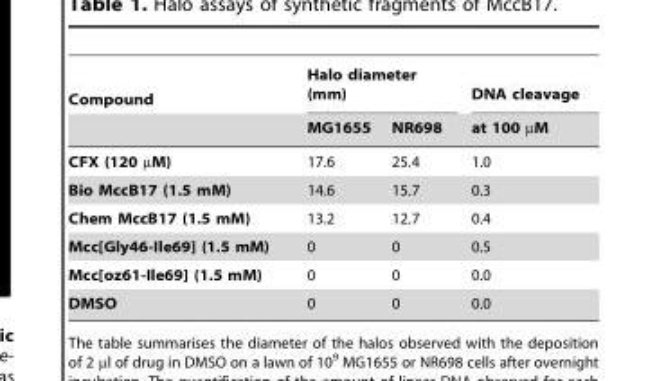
<table><thead><tr><td rowspan="2">Compound</td><td colspan="2">Halo diameter (mm)</td><td rowspan="2">DNA cleavage at 100 µM</td></tr><tr><td>MG1655</td><td>NR698</td></tr></thead><tbody><tr><td>CFX (120 µM)</td><td>17.6</td><td>25.4</td><td>1.0</td></tr><tr><td>Bio MccB17 (1.5 mM)</td><td>14.6</td><td>15.7</td><td>0.3</td></tr><tr><td>Chem MccB17 (1.5 mM)</td><td>13.2</td><td>12.7</td><td>0.4</td></tr><tr><td>Mcc[Gly46-Ile69] (1.5 mM)</td><td>0</td><td>0</td><td>0.5</td></tr><tr><td>Mcc[oz61-Ile69] (1.5 mM)</td><td>0</td><td>0</td><td>0.0</td></tr><tr><td>DMSO</td><td>0</td><td>0</td><td>0.0</td></tr></tbody></table>